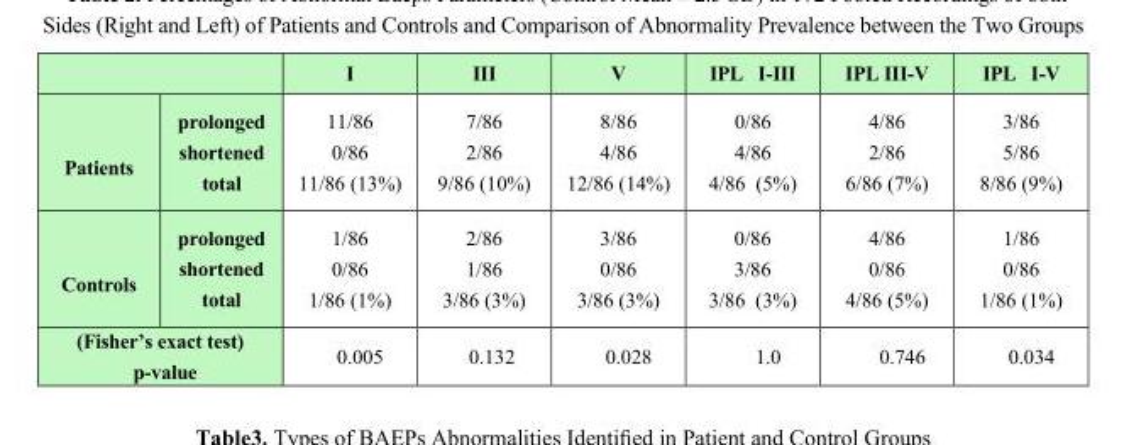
<table><thead><tr><td></td><td></td><td>I</td><td>III</td><td>V</td><td>IPL I-III</td><td>IPL III-V</td><td>IPL I-V</td></tr></thead><tbody><tr><td>Patients</td><td>prolonged shortened total</td><td>11/86 0/86 11/86 (13%)</td><td>7/86 2/86 9/86 (10%)</td><td>8/86 4/86 12/86 (14%)</td><td>0/86 4/86 4/86 (5%)</td><td>4/86 2/86 6/86 (7%)</td><td>3/86 5/86 8/86 (9%)</td></tr><tr><td>Controls</td><td>prolonged shortened total</td><td>1/86 0/86 1/86 (1%)</td><td>2/86 1/86 3/86 (3%)</td><td>3/86 0/86 3/86 (3%)</td><td>0/86 3/86 3/86 (3%)</td><td>4/86 0/86 4/86 (5%)</td><td>1/86 0/86 1/86 (1%)</td></tr><tr><td colspan="2">(Fisher’s exact test) p-value</td><td>0.005</td><td>0.132</td><td>0.028</td><td>1.0</td><td>0.746</td><td>0.034</td></tr></tbody></table>